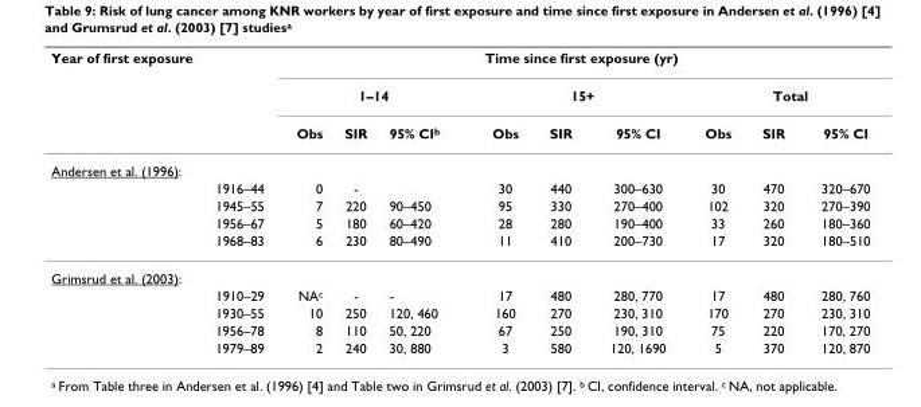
<table><thead><tr><td rowspan="3">Year of first exposure</td><td colspan="9">Time since first exposure (yr)</td></tr><tr><td colspan="3">1–14</td><td colspan="3">15+</td><td colspan="3">Total</td></tr><tr><td>Obs</td><td>SIR</td><td>95% CI<sup>b</sup></td><td>Obs</td><td>SIR</td><td>95% CI</td><td>Obs</td><td>SIR</td><td>95% CI</td></tr></thead><tbody><tr><td colspan="10">Andersen et al. (1996):</td></tr><tr><td>1916–44</td><td>0</td><td>-</td><td></td><td>30</td><td>440</td><td>300–630</td><td>30</td><td>470</td><td>320–670</td></tr><tr><td>1945–55</td><td>7</td><td>220</td><td>90–450</td><td>95</td><td>330</td><td>270–400</td><td>102</td><td>320</td><td>270–390</td></tr><tr><td>1956–67</td><td>5</td><td>180</td><td>60–420</td><td>28</td><td>280</td><td>190–400</td><td>33</td><td>260</td><td>180–360</td></tr><tr><td>1968–83</td><td>6</td><td>230</td><td>80–490</td><td>11</td><td>410</td><td>200–730</td><td>17</td><td>320</td><td>180–510</td></tr><tr><td colspan="10">Grimsrud et al. (2003):</td></tr><tr><td>1910–29</td><td>NA<sup>c</sup></td><td>-</td><td>-</td><td>17</td><td>480</td><td>280, 770</td><td>17</td><td>480</td><td>280, 760</td></tr><tr><td>1930–55</td><td>10</td><td>250</td><td>120, 460</td><td>160</td><td>270</td><td>230, 310</td><td>170</td><td>270</td><td>230, 310</td></tr><tr><td>1956–78</td><td>8</td><td>110</td><td>50, 220</td><td>67</td><td>250</td><td>190, 310</td><td>75</td><td>220</td><td>170, 270</td></tr><tr><td>1979–89</td><td>2</td><td>240</td><td>30, 880</td><td>3</td><td>580</td><td>120, 1690</td><td>5</td><td>370</td><td>120, 870</td></tr></tbody></table>